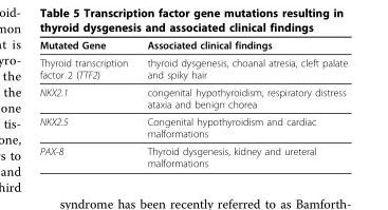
<table><thead><tr><td>Mutated Gene</td><td>Associated clinical findings</td></tr></thead><tbody><tr><td>Thyroid transcription factor 2 (TTF2)</td><td>thyroid dysgenesis, choanal atresia, cleft palate and spiky hair</td></tr><tr><td>NKX2.1</td><td>congenital hypothyroidism, respiratory distress ataxia and benign chorea</td></tr><tr><td>NKX2.5</td><td>Congenital hypothyroidism and cardiac malformations</td></tr><tr><td>PAX-8</td><td>Thyroid dysgenesis, kidney and ureteral malformations</td></tr></tbody></table>